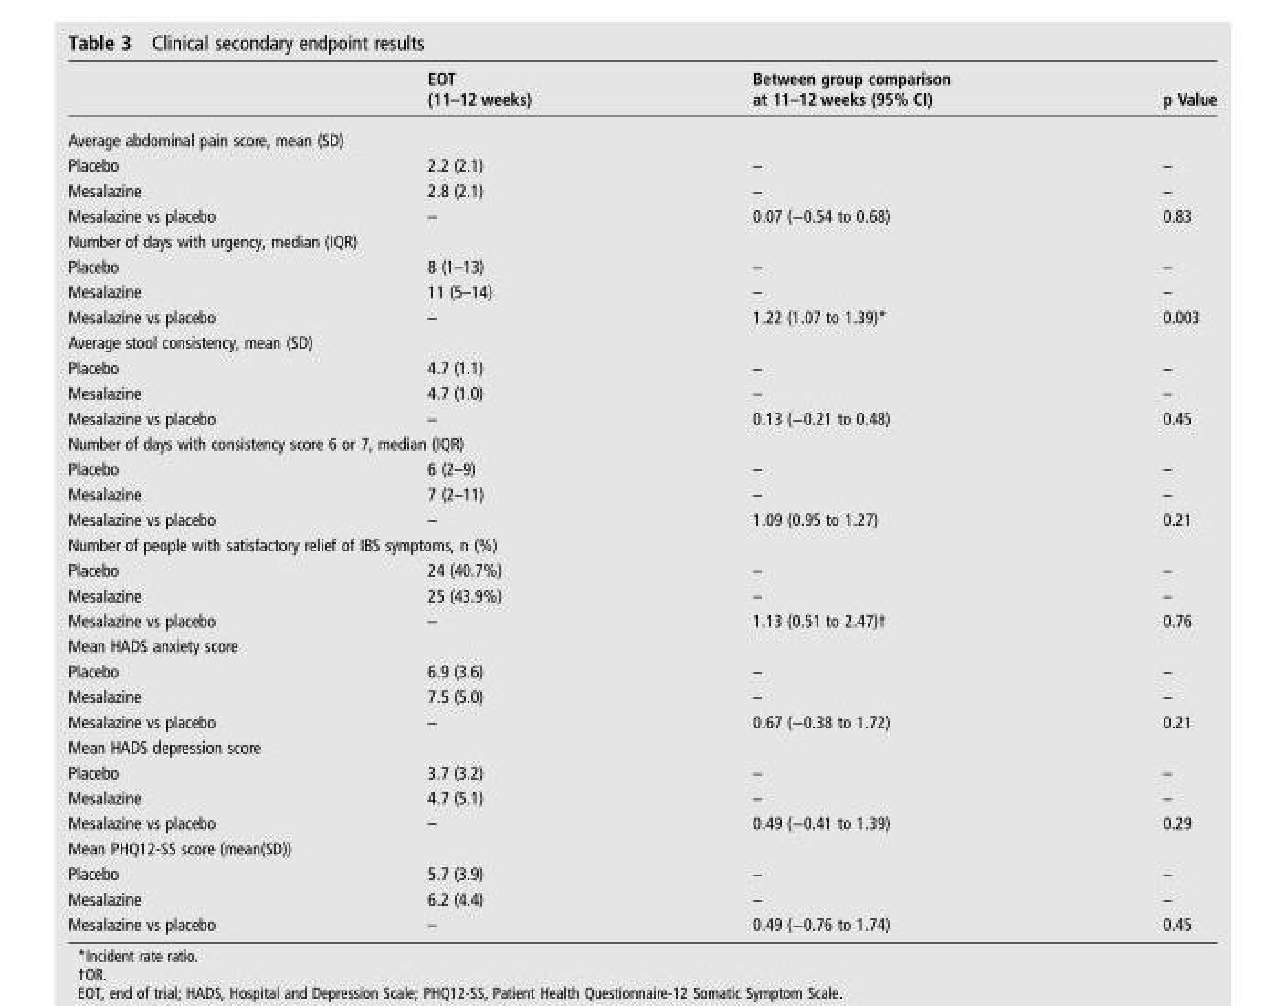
<table><thead><tr><td></td><td>EOT (11–12 weeks)</td><td>Between group comparison at 11–12 weeks (95% CI)</td><td>p Value</td></tr></thead><tbody><tr><td colspan="4">Average abdominal pain score, mean (SD)</td></tr><tr><td>Placebo</td><td>2.2 (2.1)</td><td>–</td><td>–</td></tr><tr><td>Mesalazine</td><td>2.8 (2.1)</td><td>–</td><td>–</td></tr><tr><td>Mesalazine vs placebo</td><td>–</td><td>0.07 (−0.54 to 0.68)</td><td>0.83</td></tr><tr><td colspan="4">Number of days with urgency, median (IQR)</td></tr><tr><td>Placebo</td><td>8 (1–13)</td><td>–</td><td>–</td></tr><tr><td>Mesalazine</td><td>11 (5–14)</td><td>–</td><td>–</td></tr><tr><td>Mesalazine vs placebo</td><td>–</td><td>1.22 (1.07 to 1.39)*</td><td>0.003</td></tr><tr><td colspan="4">Average stool consistency, mean (SD)</td></tr><tr><td>Placebo</td><td>4.7 (1.1)</td><td>–</td><td>–</td></tr><tr><td>Mesalazine</td><td>4.7 (1.0)</td><td>–</td><td>–</td></tr><tr><td>Mesalazine vs placebo</td><td>–</td><td>0.13 (−0.21 to 0.48)</td><td>0.45</td></tr><tr><td colspan="4">Number of days with consistency score 6 or 7, median (IQR)</td></tr><tr><td>Placebo</td><td>6 (2–9)</td><td>–</td><td>–</td></tr><tr><td>Mesalazine</td><td>7 (2–11)</td><td>–</td><td>–</td></tr><tr><td>Mesalazine vs placebo</td><td>–</td><td>1.09 (0.95 to 1.27)</td><td>0.21</td></tr><tr><td colspan="4">Number of people with satisfactory relief of IBS symptoms, n (%)</td></tr><tr><td>Placebo</td><td>24 (40.7%)</td><td>–</td><td>–</td></tr><tr><td>Mesalazine</td><td>25 (43.9%)</td><td>–</td><td>–</td></tr><tr><td>Mesalazine vs placebo</td><td>–</td><td>1.13 (0.51 to 2.47)†</td><td>0.76</td></tr><tr><td colspan="4">Mean HADS anxiety score</td></tr><tr><td>Placebo</td><td>6.9 (3.6)</td><td>–</td><td>–</td></tr><tr><td>Mesalazine</td><td>7.5 (5.0)</td><td>–</td><td>–</td></tr><tr><td>Mesalazine vs placebo</td><td>–</td><td>0.67 (−0.38 to 1.72)</td><td>0.21</td></tr><tr><td colspan="4">Mean HADS depression score</td></tr><tr><td>Placebo</td><td>3.7 (3.2)</td><td>–</td><td>–</td></tr><tr><td>Mesalazine</td><td>4.7 (5.1)</td><td>–</td><td>–</td></tr><tr><td>Mesalazine vs placebo</td><td>–</td><td>0.49 (−0.41 to 1.39)</td><td>0.29</td></tr><tr><td colspan="4">Mean PHQ12-SS score (mean(SD))</td></tr><tr><td>Placebo</td><td>5.7 (3.9)</td><td>–</td><td>–</td></tr><tr><td>Mesalazine</td><td>6.2 (4.4)</td><td>–</td><td>–</td></tr><tr><td>Mesalazine vs placebo</td><td>–</td><td>0.49 (−0.76 to 1.74)</td><td>0.45</td></tr></tbody></table>